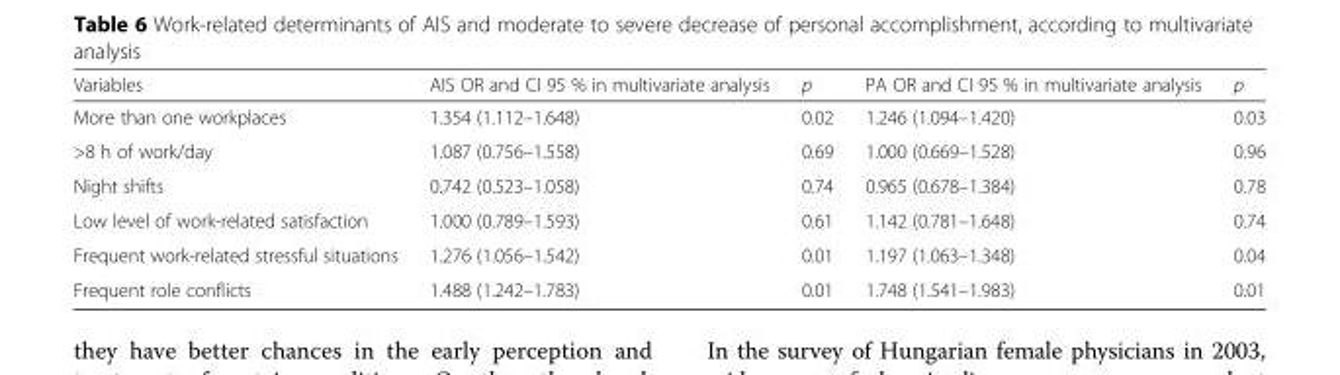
<table><thead><tr><td>Variables</td><td>AIS OR and CI 95 % in multivariate analysis</td><td>p</td><td>PA OR and CI 95 % in multivariate analysis</td><td>p</td></tr></thead><tbody><tr><td>More than one workplaces</td><td>1.354 (1.112–1.648)</td><td>0.02</td><td>1.246 (1.094–1.420)</td><td>0.03</td></tr><tr><td>&gt;8 h of work/day</td><td>1.087 (0.756–1.558)</td><td>0.69</td><td>1.000 (0.669–1.528)</td><td>0.96</td></tr><tr><td>Night shifts</td><td>0.742 (0.523–1.058)</td><td>0.74</td><td>0.965 (0.678–1.384)</td><td>0.78</td></tr><tr><td>Low level of work-related satisfaction</td><td>1.000 (0.789–1.593)</td><td>0.61</td><td>1.142 (0.781–1.648)</td><td>0.74</td></tr><tr><td>Frequent work-related stressful situations</td><td>1.276 (1.056–1.542)</td><td>0.01</td><td>1.197 (1.063–1.348)</td><td>0.04</td></tr><tr><td>Frequent role conflicts</td><td>1.488 (1.242–1.783)</td><td>0.01</td><td>1.748 (1.541–1.983)</td><td>0.01</td></tr></tbody></table>